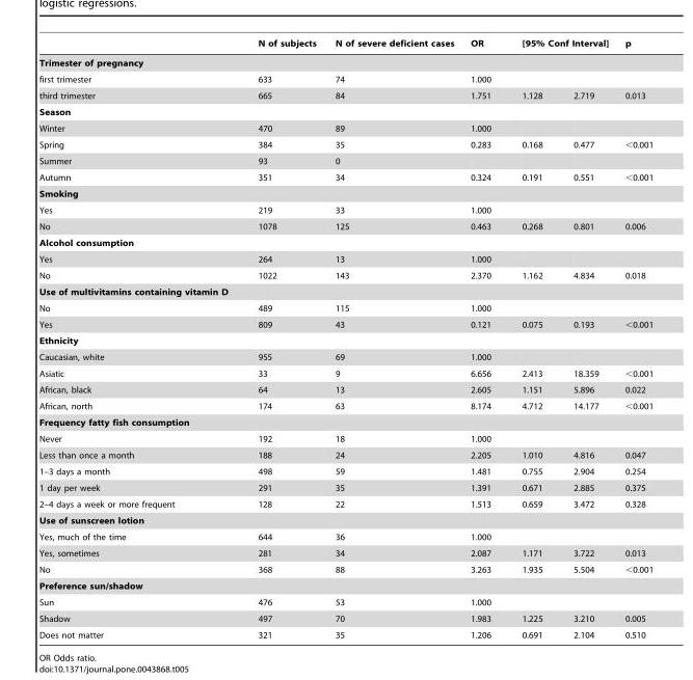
<table><thead><tr><td></td><td>N of subjects</td><td>N of severe deficient cases</td><td>OR</td><td colspan="2">[95% Conf Interval]</td><td>p</td></tr><tr><td colspan="7">Trimester of pregnancy</td></tr><tr><td>first trimester</td><td>633</td><td>74</td><td>1.000</td><td></td><td></td><td></td></tr></thead><tbody><tr><td>third trimester</td><td>665</td><td>84</td><td>1.751</td><td>1.128</td><td>2.719</td><td>0.013</td></tr><tr><td colspan="7">Season</td></tr><tr><td>Winter</td><td>470</td><td>89</td><td>1.000</td><td></td><td></td><td></td></tr><tr><td>Spring</td><td>384</td><td>35</td><td>0.283</td><td>0.168</td><td>0.477</td><td>&lt;0.001</td></tr><tr><td>Summer</td><td>93</td><td>0</td><td></td><td></td><td></td><td></td></tr><tr><td>Autumn</td><td>351</td><td>34</td><td>0.324</td><td>0.191</td><td>0.551</td><td>&lt;0.001</td></tr><tr><td colspan="7">Smoking</td></tr><tr><td>Yes</td><td>219</td><td>33</td><td>1.000</td><td></td><td></td><td></td></tr><tr><td>No</td><td>1078</td><td>125</td><td>0.463</td><td>0.268</td><td>0.801</td><td>0.006</td></tr><tr><td colspan="7">Alcohol consumption</td></tr><tr><td>Yes</td><td>264</td><td>13</td><td>1.000</td><td></td><td></td><td></td></tr><tr><td>No</td><td>1022</td><td>143</td><td>2.370</td><td>1.162</td><td>4.834</td><td>0.018</td></tr><tr><td colspan="7">Use of multivitamins containing vitamin D</td></tr><tr><td>No</td><td>489</td><td>115</td><td>1.000</td><td></td><td></td><td></td></tr><tr><td>Yes</td><td>809</td><td>43</td><td>0.121</td><td>0.075</td><td>0.193</td><td>&lt;0.001</td></tr><tr><td colspan="7">Ethnicity</td></tr><tr><td>Caucasian, white</td><td>955</td><td>69</td><td>1.000</td><td></td><td></td><td></td></tr><tr><td>Asiatic</td><td>33</td><td>9</td><td>6.656</td><td>2.413</td><td>18.359</td><td>&lt;0.001</td></tr><tr><td>African, black</td><td>64</td><td>13</td><td>2.605</td><td>1.151</td><td>5.896</td><td>0.022</td></tr><tr><td>African, north</td><td>174</td><td>63</td><td>8.174</td><td>4.712</td><td>14.177</td><td>&lt;0.001</td></tr><tr><td colspan="7">Frequency fatty fish consumption</td></tr><tr><td>Never</td><td>192</td><td>18</td><td>1.000</td><td></td><td></td><td></td></tr><tr><td>Less than once a month</td><td>188</td><td>24</td><td>2.205</td><td>1.010</td><td>4.816</td><td>0.047</td></tr><tr><td>1–3 days a month</td><td>498</td><td>59</td><td>1.481</td><td>0.755</td><td>2.904</td><td>0.254</td></tr><tr><td>1 day per week</td><td>291</td><td>35</td><td>1.391</td><td>0.671</td><td>2.885</td><td>0.375</td></tr><tr><td>2–4 days a week or more frequent</td><td>128</td><td>22</td><td>1.513</td><td>0.659</td><td>3.472</td><td>0.328</td></tr><tr><td colspan="7">Use of sunscreen lotion</td></tr><tr><td>Yes, much of the time</td><td>644</td><td>36</td><td>1.000</td><td></td><td></td><td></td></tr><tr><td>Yes, sometimes</td><td>281</td><td>34</td><td>2.087</td><td>1.171</td><td>3.722</td><td>0.013</td></tr><tr><td>No</td><td>368</td><td>88</td><td>3.263</td><td>1.935</td><td>5.504</td><td>&lt;0.001</td></tr><tr><td colspan="7">Preference sun/shadow</td></tr><tr><td>Sun</td><td>476</td><td>53</td><td>1.000</td><td></td><td></td><td></td></tr><tr><td>Shadow</td><td>497</td><td>70</td><td>1.983</td><td>1.225</td><td>3.210</td><td>0.005</td></tr><tr><td>Does not matter</td><td>321</td><td>35</td><td>1.206</td><td>0.691</td><td>2.104</td><td>0.510</td></tr></tbody></table>